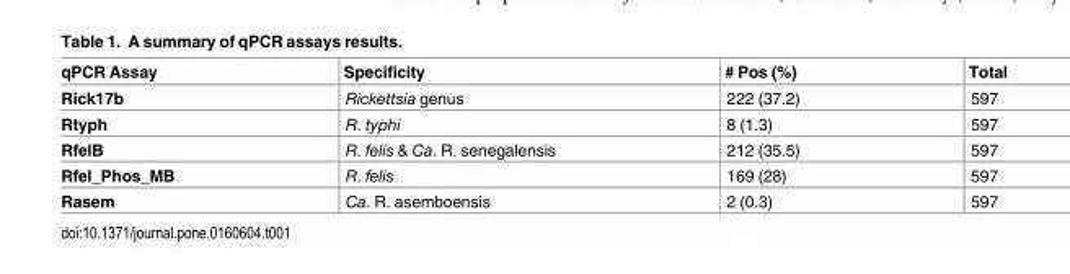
<table><thead><tr><td>qPCR Assay</td><td>Specificity</td><td># Pos (%)</td><td>Total</td></tr></thead><tbody><tr><td>Rick17b</td><td>Rickettsia genus</td><td>222 (37.2)</td><td>597</td></tr><tr><td>Rtyph</td><td>R. typhi</td><td>8 (1.3)</td><td>597</td></tr><tr><td>RfelB</td><td>R. felis &amp; Ca. R. senegalensis</td><td>212 (35.5)</td><td>597</td></tr><tr><td>Rfel_Phos_MB</td><td>R. felis</td><td>169 (28)</td><td>597</td></tr><tr><td>Rasem</td><td>Ca. R. asemboensis</td><td>2 (0.3)</td><td>597</td></tr></tbody></table>